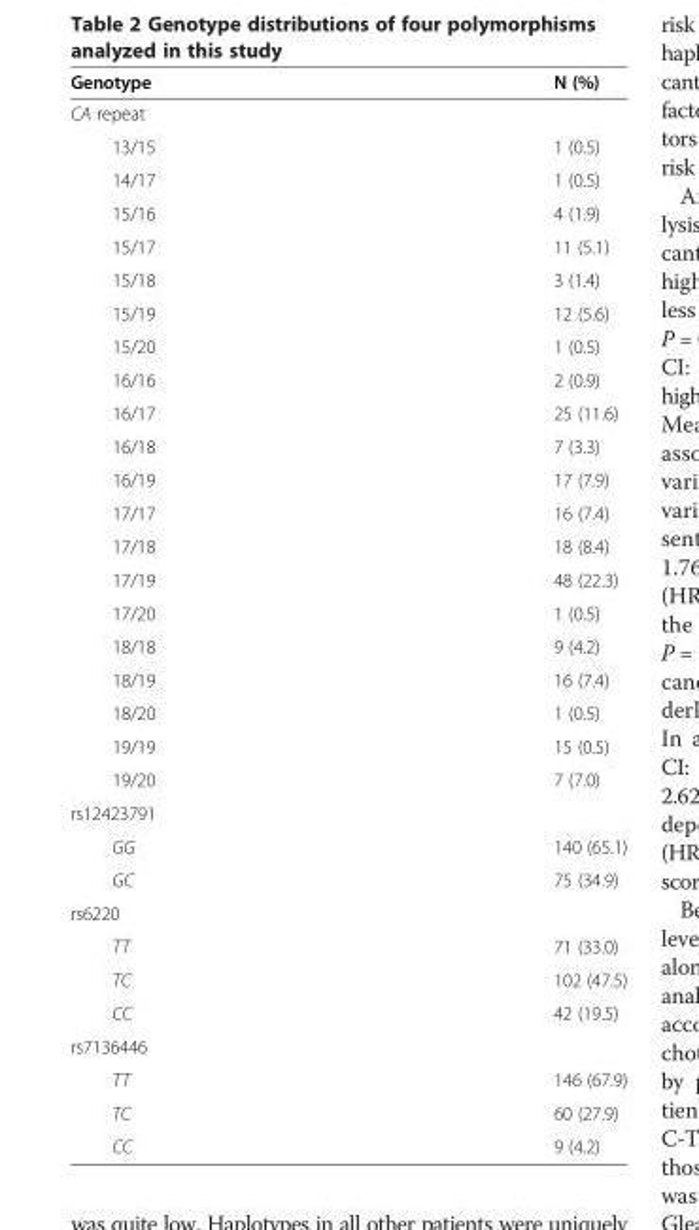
<table><thead><tr><td>Genotype</td><td>N (%)</td></tr></thead><tbody><tr><td colspan="2">CA repeat</td></tr><tr><td>13/15</td><td>1 (0.5)</td></tr><tr><td>14/17</td><td>1 (0.5)</td></tr><tr><td>15/16</td><td>4 (1.9)</td></tr><tr><td>15/17</td><td>11 (5.1)</td></tr><tr><td>15/18</td><td>3 (1.4)</td></tr><tr><td>15/19</td><td>12 (5.6)</td></tr><tr><td>15/20</td><td>1 (0.5)</td></tr><tr><td>16/16</td><td>2 (0.9)</td></tr><tr><td>16/17</td><td>25 (11.6)</td></tr><tr><td>16/18</td><td>7 (3.3)</td></tr><tr><td>16/19</td><td>17 (7.9)</td></tr><tr><td>17/17</td><td>16 (7.4)</td></tr><tr><td>17/18</td><td>18 (8.4)</td></tr><tr><td>17/19</td><td>48 (22.3)</td></tr><tr><td>17/20</td><td>1 (0.5)</td></tr><tr><td>18/18</td><td>9 (4.2)</td></tr><tr><td>18/19</td><td>16 (7.4)</td></tr><tr><td>18/20</td><td>1 (0.5)</td></tr><tr><td>19/19</td><td>15 (0.5)</td></tr><tr><td>19/20</td><td>7 (7.0)</td></tr><tr><td colspan="2">rs12423791</td></tr><tr><td>GG</td><td>140 (65.1)</td></tr><tr><td>GC</td><td>75 (34.9)</td></tr><tr><td colspan="2">rs6220</td></tr><tr><td>TT</td><td>71 (33.0)</td></tr><tr><td>TC</td><td>102 (47.5)</td></tr><tr><td>CC</td><td>42 (19.5)</td></tr><tr><td colspan="2">rs7136446</td></tr><tr><td>TT</td><td>146 (67.9)</td></tr><tr><td>TC</td><td>60 (27.9)</td></tr><tr><td>CC</td><td>9 (4.2)</td></tr></tbody></table>